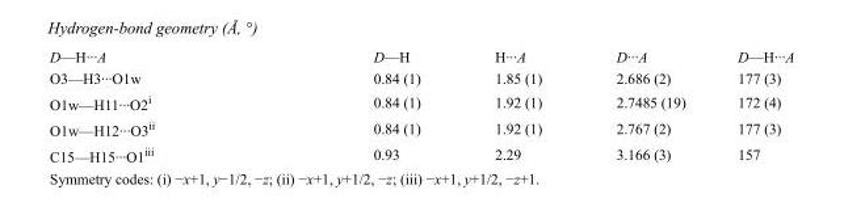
<table><tbody><tr><td>D—H···A</td><td>D—H</td><td>H···A</td><td>D···A</td><td>D—H···A</td></tr><tr><td>O3—H3···O1w</td><td>0.84 (1)</td><td>1.85 (1)</td><td>2.686 (2)</td><td>177 (3)</td></tr><tr><td>O1w—H11···O2<sup>i</sup></td><td>0.84 (1)</td><td>1.92 (1)</td><td>2.7485 (19)</td><td>172 (4)</td></tr><tr><td>O1w—H12···O3<sup>ii</sup></td><td>0.84 (1)</td><td>1.92 (1)</td><td>2.767 (2)</td><td>177 (3)</td></tr><tr><td>C15—H15···O1<sup>iii</sup></td><td>0.93</td><td>2.29</td><td>3.166 (3)</td><td>157</td></tr></tbody></table>